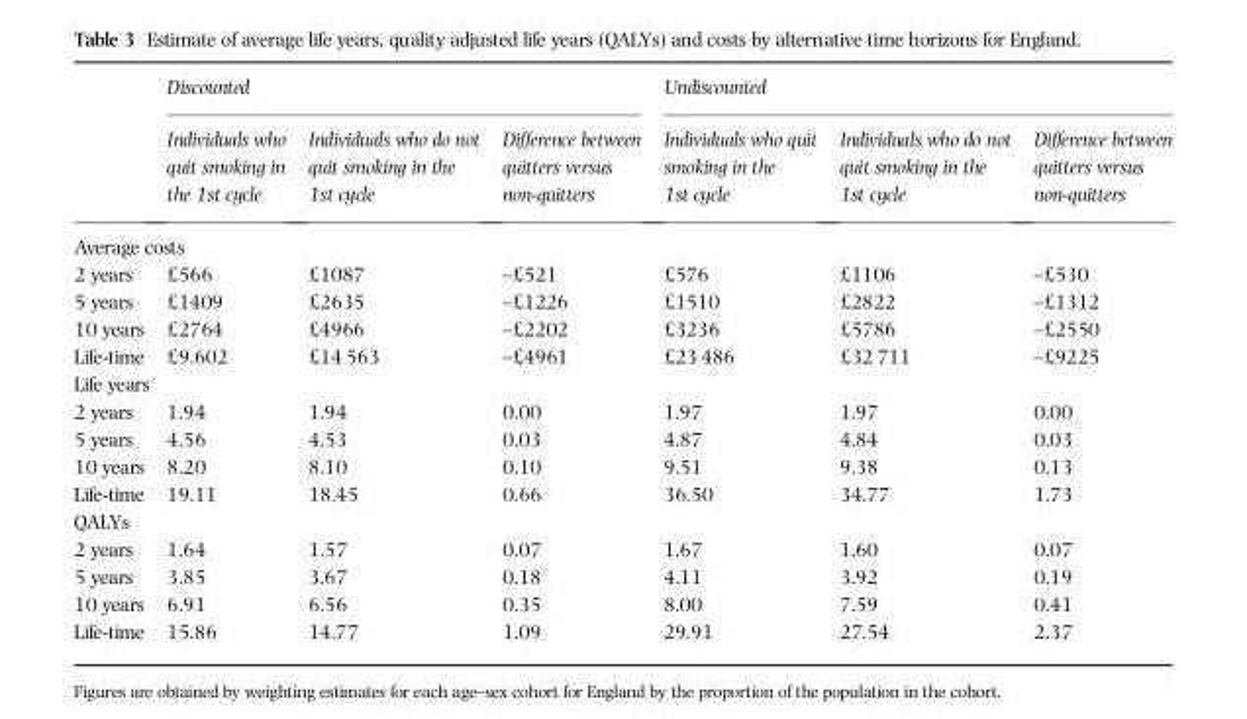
<table><thead><tr><td rowspan="2"></td><td colspan="3">Discounted</td><td colspan="3">Undiscounted</td></tr><tr><td>Individuals who quit smoking in the 1st cycle</td><td>Individuals who do not quit smoking in the 1st cycle</td><td>Difference between quitters versus non-quitters</td><td>Individuals who quit smoking in the 1st cycle</td><td>Individuals who do not quit smoking in the 1st cycle</td><td>Difference between quitters versus non-quitters</td></tr></thead><tbody><tr><td colspan="7">Average costs</td></tr><tr><td>2 years</td><td>£566</td><td>£1087</td><td>–£521</td><td>£576</td><td>£1106</td><td>–£530</td></tr><tr><td>5 years</td><td>£1409</td><td>£2635</td><td>–£1226</td><td>£1510</td><td>£2822</td><td>–£1312</td></tr><tr><td>10 years</td><td>£2764</td><td>£4966</td><td>–£2202</td><td>£3236</td><td>£5786</td><td>–£2550</td></tr><tr><td>Life-time</td><td>£9.602</td><td>£14 563</td><td>–£4961</td><td>£23 486</td><td>£32 711</td><td>–£9225</td></tr><tr><td colspan="7">Life years</td></tr><tr><td>2 years</td><td>1.94</td><td>1.94</td><td>0.00</td><td>1.97</td><td>1.97</td><td>0.00</td></tr><tr><td>5 years</td><td>4.56</td><td>4.53</td><td>0.03</td><td>4.87</td><td>4.84</td><td>0.03</td></tr><tr><td>10 years</td><td>8.20</td><td>8.10</td><td>0.10</td><td>9.51</td><td>9.38</td><td>0.13</td></tr><tr><td>Life-time</td><td>19.11</td><td>18.45</td><td>0.66</td><td>36.50</td><td>34.77</td><td>1.73</td></tr><tr><td colspan="7">QALYs</td></tr><tr><td>2 years</td><td>1.64</td><td>1.57</td><td>0.07</td><td>1.67</td><td>1.60</td><td>0.07</td></tr><tr><td>5 years</td><td>3.85</td><td>3.67</td><td>0.18</td><td>4.11</td><td>3.92</td><td>0.19</td></tr><tr><td>10 years</td><td>6.91</td><td>6.56</td><td>0.35</td><td>8.00</td><td>7.59</td><td>0.41</td></tr><tr><td>Life-time</td><td>15.86</td><td>14.77</td><td>1.09</td><td>29.91</td><td>27.54</td><td>2.37</td></tr></tbody></table>